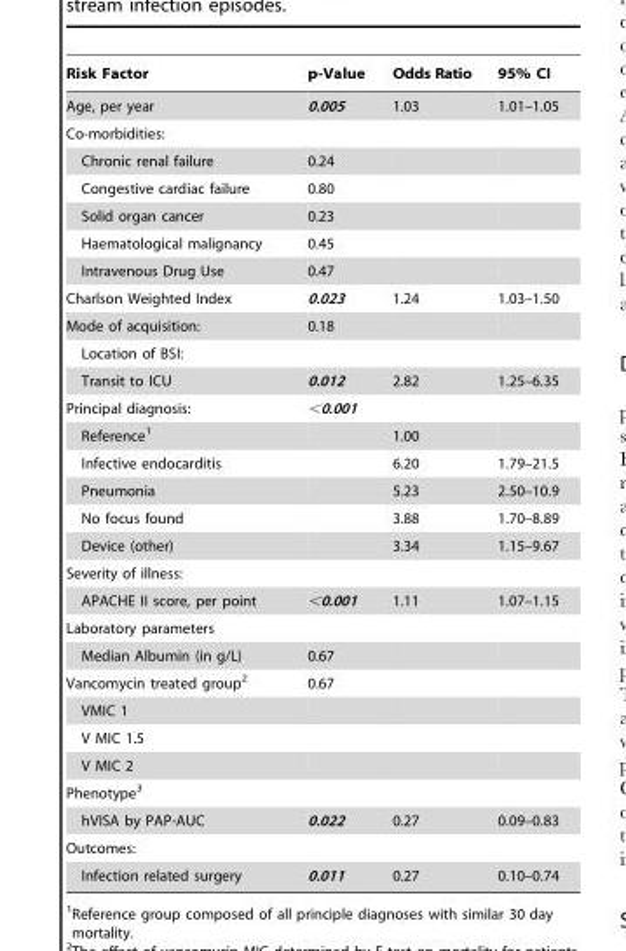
<table><thead><tr><td>Risk Factor</td><td>p-Value</td><td>Odds Ratio</td><td>95% CI</td></tr></thead><tbody><tr><td>Age, per year</td><td>0.005</td><td>1.03</td><td>1.01–1.05</td></tr><tr><td colspan="4">Co-morbidities:</td></tr><tr><td>Chronic renal failure</td><td>0.24</td><td></td><td></td></tr><tr><td>Congestive cardiac failure</td><td>0.80</td><td></td><td></td></tr><tr><td>Solid organ cancer</td><td>0.23</td><td></td><td></td></tr><tr><td>Haematological malignancy</td><td>0.45</td><td></td><td></td></tr><tr><td>Intravenous Drug Use</td><td>0.47</td><td></td><td></td></tr><tr><td>Charlson Weighted Index</td><td>0.023</td><td>1.24</td><td>1.03–1.50</td></tr><tr><td>Mode of acquisition:</td><td>0.18</td><td></td><td></td></tr><tr><td colspan="4">Location of BSI:</td></tr><tr><td>Transit to ICU</td><td>0.012</td><td>2.82</td><td>1.25–6.35</td></tr><tr><td>Principal diagnosis:</td><td>&lt;0.001</td><td></td><td></td></tr><tr><td>Reference<sup>1</sup></td><td></td><td>1.00</td><td></td></tr><tr><td>Infective endocarditis</td><td></td><td>6.20</td><td>1.79–21.5</td></tr><tr><td>Pneumonia</td><td></td><td>5.23</td><td>2.50–10.9</td></tr><tr><td>No focus found</td><td></td><td>3.88</td><td>1.70–8.89</td></tr><tr><td>Device (other)</td><td></td><td>3.34</td><td>1.15–9.67</td></tr><tr><td colspan="4">Severity of illness:</td></tr><tr><td>APACHE II score, per point</td><td>&lt;0.001</td><td>1.11</td><td>1.07–1.15</td></tr><tr><td colspan="4">Laboratory parameters</td></tr><tr><td>Median Albumin (in g/L)</td><td>0.67</td><td></td><td></td></tr><tr><td>Vancomycin treated group<sup>2</sup></td><td>0.67</td><td></td><td></td></tr><tr><td colspan="4">VMIC 1</td></tr><tr><td colspan="4">V MIC 1.5</td></tr><tr><td colspan="4">V MIC 2</td></tr><tr><td colspan="4">Phenotype<sup>3</sup></td></tr><tr><td>hVISA by PAP-AUC</td><td>0.022</td><td>0.27</td><td>0.09–0.83</td></tr><tr><td colspan="4">Outcomes:</td></tr><tr><td>Infection related surgery</td><td>0.011</td><td>0.27</td><td>0.10–0.74</td></tr></tbody></table>